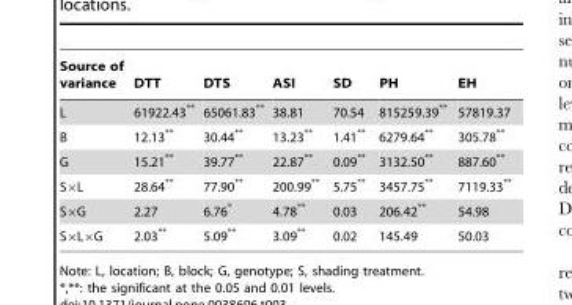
<table><thead><tr><td>Source of variance</td><td>DTT</td><td>DTS</td><td>ASI</td><td>SD</td><td>PH</td><td>EH</td></tr></thead><tbody><tr><td>L</td><td>61922.43**</td><td>65061.83**</td><td>38.81</td><td>70.54</td><td>815259.39**</td><td>57819.37</td></tr><tr><td>B</td><td>12.13**</td><td>30.44**</td><td>13.23**</td><td>1.41**</td><td>6279.64**</td><td>305.78**</td></tr><tr><td>G</td><td>15.21**</td><td>39.77**</td><td>22.87**</td><td>0.09**</td><td>3132.50**</td><td>887.60**</td></tr><tr><td>S×L</td><td>28.64**</td><td>77.90**</td><td>200.99**</td><td>5.75**</td><td>3457.75**</td><td>7119.33**</td></tr><tr><td>S×G</td><td>2.27</td><td>6.76*</td><td>4.78**</td><td>0.03</td><td>206.42**</td><td>54.98</td></tr><tr><td>S×L×G</td><td>2.03**</td><td>5.09**</td><td>3.09**</td><td>0.02</td><td>145.49</td><td>50.03</td></tr></tbody></table>